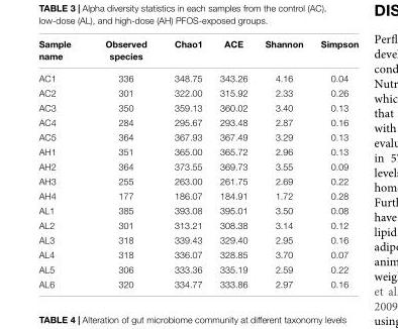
<table><thead><tr><td>Sample name</td><td>Observed species</td><td>Chao1</td><td>ACE</td><td>Shannon</td><td>Simpson</td></tr></thead><tbody><tr><td>AC1</td><td>336</td><td>348.75</td><td>343.26</td><td>4.16</td><td>0.04</td></tr><tr><td>AC2</td><td>301</td><td>322.00</td><td>315.92</td><td>2.33</td><td>0.26</td></tr><tr><td>AC3</td><td>350</td><td>359.13</td><td>360.02</td><td>3.40</td><td>0.13</td></tr><tr><td>AC4</td><td>284</td><td>295.67</td><td>293.48</td><td>2.87</td><td>0.16</td></tr><tr><td>AC5</td><td>364</td><td>367.93</td><td>367.49</td><td>3.29</td><td>0.13</td></tr><tr><td>AH1</td><td>351</td><td>365.00</td><td>365.72</td><td>2.96</td><td>0.13</td></tr><tr><td>AH2</td><td>364</td><td>373.55</td><td>369.73</td><td>3.55</td><td>0.09</td></tr><tr><td>AH3</td><td>255</td><td>263.00</td><td>261.75</td><td>2.69</td><td>0.22</td></tr><tr><td>AH4</td><td>177</td><td>186.07</td><td>184.91</td><td>1.72</td><td>0.28</td></tr><tr><td>AL1</td><td>385</td><td>393.08</td><td>395.01</td><td>3.50</td><td>0.08</td></tr><tr><td>AL2</td><td>301</td><td>313.21</td><td>308.38</td><td>3.14</td><td>0.12</td></tr><tr><td>AL3</td><td>318</td><td>339.43</td><td>329.40</td><td>2.95</td><td>0.16</td></tr><tr><td>AL4</td><td>318</td><td>336.07</td><td>328.85</td><td>3.70</td><td>0.07</td></tr><tr><td>AL5</td><td>306</td><td>333.36</td><td>335.19</td><td>2.59</td><td>0.22</td></tr><tr><td>AL6</td><td>320</td><td>334.77</td><td>333.86</td><td>2.97</td><td>0.16</td></tr></tbody></table>